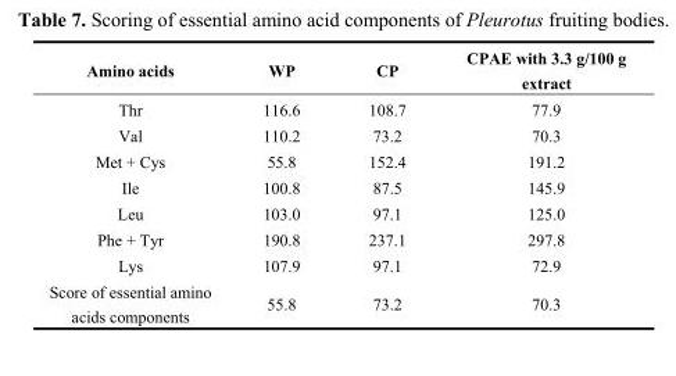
<table><thead><tr><td>Amino acids</td><td>WP</td><td>CP</td><td>CPAE with 3.3 g/100 g extract</td></tr></thead><tbody><tr><td>Thr</td><td>116.6</td><td>108.7</td><td>77.9</td></tr><tr><td>Val</td><td>110.2</td><td>73.2</td><td>70.3</td></tr><tr><td>Met + Cys</td><td>55.8</td><td>152.4</td><td>191.2</td></tr><tr><td>Ile</td><td>100.8</td><td>87.5</td><td>145.9</td></tr><tr><td>Leu</td><td>103.0</td><td>97.1</td><td>125.0</td></tr><tr><td>Phe + Tyr</td><td>190.8</td><td>237.1</td><td>297.8</td></tr><tr><td>Lys</td><td>107.9</td><td>97.1</td><td>72.9</td></tr><tr><td>Score of essential amino acids components</td><td>55.8</td><td>73.2</td><td>70.3</td></tr></tbody></table>